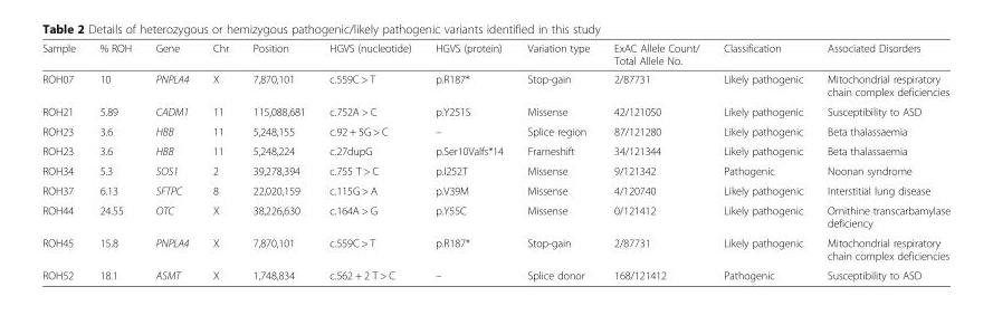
<table><thead><tr><td>Sample</td><td>% ROH</td><td>Gene</td><td>Chr</td><td>Position</td><td>HGVS (nucleotide)</td><td>HGVS (protein)</td><td>Variation type</td><td>ExAC Allele Count/ Total Allele No.</td><td>Classification</td><td>Associated Disorders</td></tr></thead><tbody><tr><td>ROH07</td><td>10</td><td>PNPLA4</td><td>X</td><td>7,870,101</td><td>c.559C &gt; T</td><td>p.R187*</td><td>Stop-gain</td><td>2/87731</td><td>Likely pathogenic</td><td>Mitochondrial respiratory chain complex deficiencies</td></tr><tr><td>ROH21</td><td>5.89</td><td>CADM1</td><td>11</td><td>115,088,681</td><td>c.752A &gt; C</td><td>p.Y251S</td><td>Missense</td><td>42/121050</td><td>Likely pathogenic</td><td>Susceptibility to ASD</td></tr><tr><td>ROH23</td><td>3.6</td><td>HBB</td><td>11</td><td>5,248,155</td><td>c.92 + 5G &gt; C</td><td>–</td><td>Splice region</td><td>87/121280</td><td>Likely pathogenic</td><td>Beta thalassaemia</td></tr><tr><td>ROH23</td><td>3.6</td><td>HBB</td><td>11</td><td>5,248,224</td><td>c.27dupG</td><td>p.Ser10Valfs*14</td><td>Frameshift</td><td>34/121344</td><td>Likely pathogenic</td><td>Beta thalassaemia</td></tr><tr><td>ROH34</td><td>5.3</td><td>SOS1</td><td>2</td><td>39,278,394</td><td>c.755 T &gt; C</td><td>p.I252T</td><td>Missense</td><td>9/121342</td><td>Pathogenic</td><td>Noonan syndrome</td></tr><tr><td>ROH37</td><td>6.13</td><td>SFTPC</td><td>8</td><td>22,020,159</td><td>c.115G &gt; A</td><td>p.V39M</td><td>Missense</td><td>4/120740</td><td>Likely pathogenic</td><td>Interstitial lung disease</td></tr><tr><td>ROH44</td><td>24.55</td><td>OTC</td><td>X</td><td>38,226,630</td><td>c.164A &gt; G</td><td>p.Y55C</td><td>Missense</td><td>0/121412</td><td>Likely pathogenic</td><td>Ornithine transcarbamylase deficiency</td></tr><tr><td>ROH45</td><td>15.8</td><td>PNPLA4</td><td>X</td><td>7,870,101</td><td>c.559C &gt; T</td><td>p.R187*</td><td>Stop-gain</td><td>2/87731</td><td>Likely pathogenic</td><td>Mitochondrial respiratory chain complex deficiencies</td></tr><tr><td>ROH52</td><td>18.1</td><td>ASMT</td><td>X</td><td>1,748,834</td><td>c.562 + 2 T &gt; C</td><td>–</td><td>Splice donor</td><td>168/121412</td><td>Pathogenic</td><td>Susceptibility to ASD</td></tr></tbody></table>